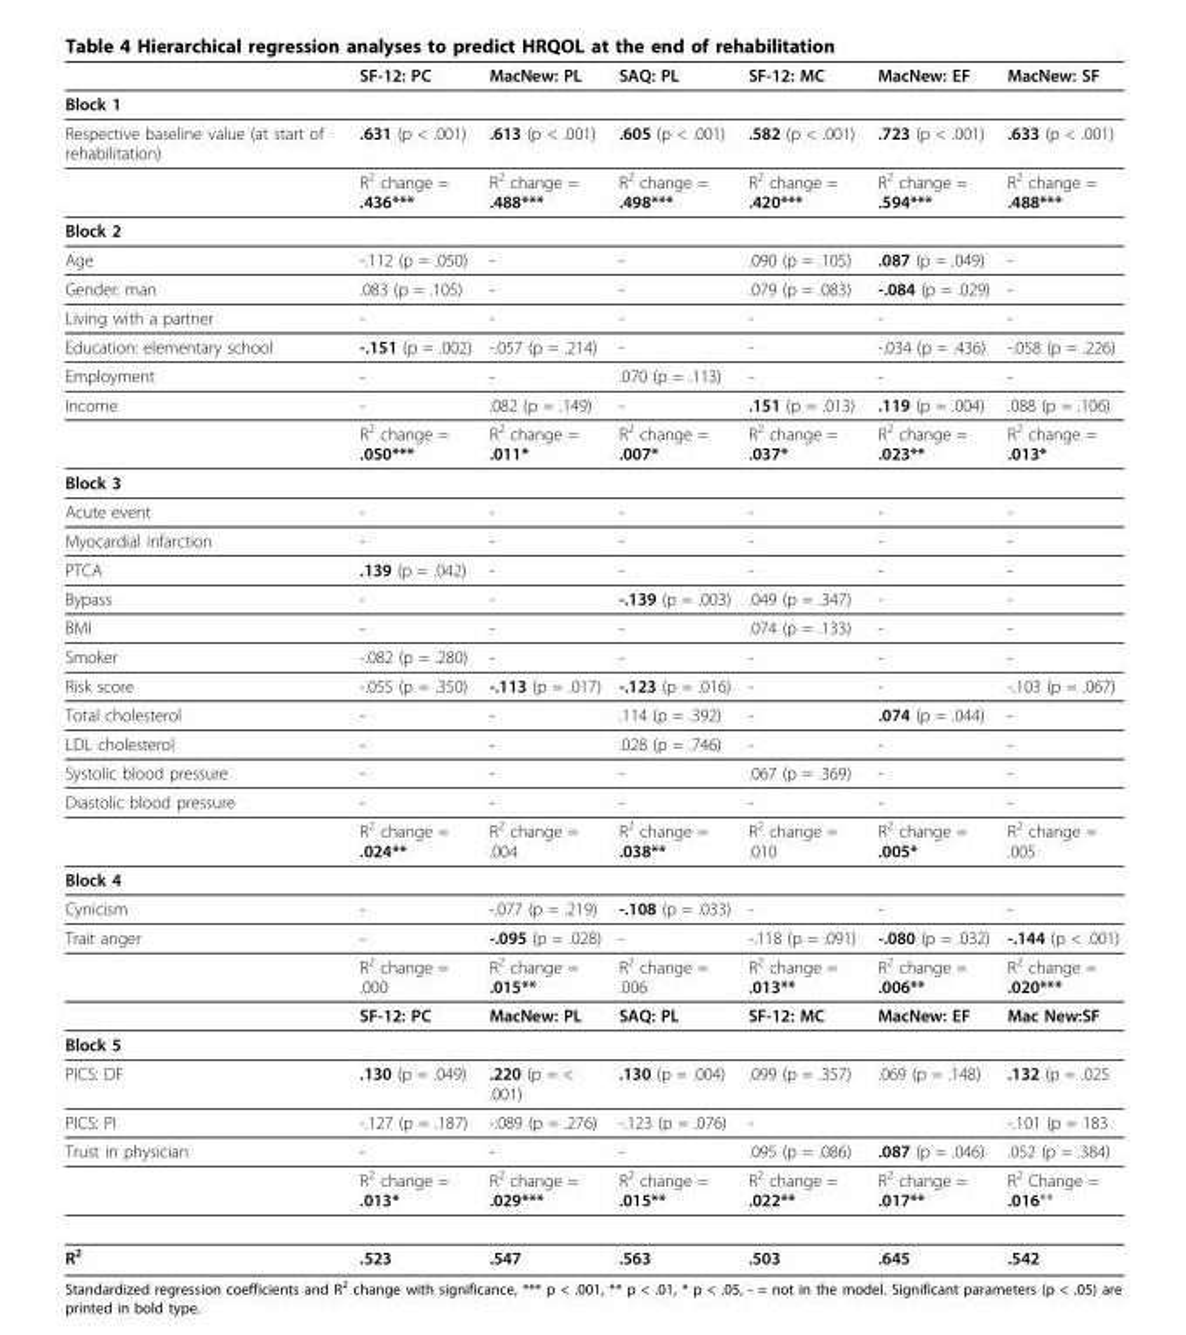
<table><thead><tr><td></td><td>SF-12: PC</td><td>MacNew: PL</td><td>SAQ: PL</td><td>SF-12: MC</td><td>MacNew: EF</td><td>MacNew: SF</td></tr></thead><tbody><tr><td colspan="7">Block 1</td></tr><tr><td rowspan="2">Respective baseline value (at start of rehabilitation)</td><td>.631 (p &lt; .001)</td><td>.613 (p &lt; .001)</td><td>.605 (p &lt; .001)</td><td>.582 (p &lt; .001)</td><td>.723 (p &lt; .001)</td><td>.633 (p &lt; .001)</td></tr><tr><td>R2 change = .436***</td><td>R2 change = .488***</td><td>R2 change = .498***</td><td>R2 change = .420***</td><td>R2 change = .594***</td><td>R2 change = .488***</td></tr><tr><td colspan="7">Block 2</td></tr><tr><td>Age</td><td>-.112 (p = .050)</td><td>-</td><td>-</td><td>.090 (p = .105)</td><td>.087 (p = .049)</td><td>-</td></tr><tr><td>Gender: man</td><td>.083 (p = .105)</td><td>-</td><td>-</td><td>.079 (p = .083)</td><td>-.084 (p = .029)</td><td>-</td></tr><tr><td>Living with a partner</td><td>-</td><td>-</td><td>-</td><td>-</td><td>-</td><td>-</td></tr><tr><td>Education: elementary school</td><td>-.151 (p = .002)</td><td>-.057 (p = .214)</td><td>-</td><td>-</td><td>-.034 (p = .436)</td><td>-.058 (p = .226)</td></tr><tr><td>Employment</td><td>-</td><td>-</td><td>.070 (p = .113)</td><td>-</td><td>-</td><td>-</td></tr><tr><td rowspan="2">Income</td><td>-</td><td>.082 (p = .149)</td><td>-</td><td>.151 (p = .013)</td><td>.119 (p = .004)</td><td>.088 (p = .106)</td></tr><tr><td>R2 change = .050***</td><td>R2 change = .011*</td><td>R2 change = .007*</td><td>R2 change = .037*</td><td>R2 change = .023**</td><td>R2 change = .013*</td></tr><tr><td colspan="7">Block 3</td></tr><tr><td>Acute event</td><td>-</td><td>-</td><td>-</td><td>-</td><td>-</td><td>-</td></tr><tr><td>Myocardial infarction</td><td>-</td><td>-</td><td>-</td><td>-</td><td>-</td><td>-</td></tr><tr><td>PTCA</td><td>.139 (p = .042)</td><td>-</td><td>-</td><td>-</td><td>-</td><td>-</td></tr><tr><td>Bypass</td><td>-</td><td>-</td><td>-.139 (p = .003)</td><td>.049 (p = .347)</td><td>-</td><td>-</td></tr><tr><td>BMI</td><td>-</td><td>-</td><td>-</td><td>.074 (p = .133)</td><td>-</td><td>-</td></tr><tr><td>Smoker</td><td>-.082 (p = .280)</td><td>-</td><td>-</td><td>-</td><td>-</td><td>-</td></tr><tr><td>Risk score</td><td>-.055 (p = .350)</td><td>-.113 (p = .017)</td><td>-.123 (p = .016)</td><td>-</td><td>-</td><td>-.103 (p = .067)</td></tr><tr><td>Total cholesterol</td><td>-</td><td>-</td><td>.114 (p = .392)</td><td>-</td><td>.074 (p = .044)</td><td>-</td></tr><tr><td>LDL cholesterol</td><td>-</td><td>-</td><td>.028 (p = .746)</td><td>-</td><td>-</td><td>-</td></tr><tr><td>Systolic blood pressure</td><td>-</td><td>-</td><td>-</td><td>.067 (p = .369)</td><td>-</td><td>-</td></tr><tr><td rowspan="2">Diastolic blood pressure</td><td>-</td><td>-</td><td>-</td><td>-</td><td>-</td><td>-</td></tr><tr><td>R2 change = .024**</td><td>R2 change = .004</td><td>R2 change = .038**</td><td>R2 change = .010</td><td>R2 change = .005*</td><td>R2 change = .005</td></tr><tr><td colspan="7">Block 4</td></tr><tr><td>Cynicism</td><td>-</td><td>-.077 (p = .219)</td><td>-.108 (p = .033)</td><td>-</td><td>-</td><td>-</td></tr><tr><td rowspan="3">Trait anger</td><td>-</td><td>-.095 (p = .028)</td><td>-</td><td>-.118 (p = .091)</td><td>-.080 (p = .032)</td><td>-.144 (p &lt; .001)</td></tr><tr><td>R2 change = .000</td><td>R2 change = .015**</td><td>R2 change = .006</td><td>R2 change = .013**</td><td>R2 change = .006**</td><td>R2 change = .020***</td></tr><tr><td>SF-12: PC</td><td>MacNew: PL</td><td>SAQ: PL</td><td>SF-12: MC</td><td>MacNew: EF</td><td>Mac New:SF</td></tr><tr><td colspan="7">Block 5</td></tr><tr><td>PICS: DF</td><td>.130 (p = .049)</td><td>.220 (p = &lt; .001)</td><td>.130 (p = .004)</td><td>.099 (p = .357)</td><td>.069 (p = .148)</td><td>.132 (p = .025</td></tr><tr><td>PICS: PI</td><td>-.127 (p = .187)</td><td>-.089 (p = .276)</td><td>-.123 (p = .076)</td><td>-</td><td></td><td>-.101 (p = 183</td></tr><tr><td rowspan="2">Trust in physician</td><td>-</td><td>-</td><td>-</td><td>.095 (p = .086)</td><td>.087 (p = .046)</td><td>.052 (p = .384)</td></tr><tr><td>R2 change = .013*</td><td>R2 change = .029***</td><td>R2 change = .015**</td><td>R2 change = .022**</td><td>R2 change = .017**</td><td>R2 Change = .016**</td></tr><tr><td>R2</td><td>.523</td><td>.547</td><td>.563</td><td>.503</td><td>.645</td><td>.542</td></tr></tbody></table>